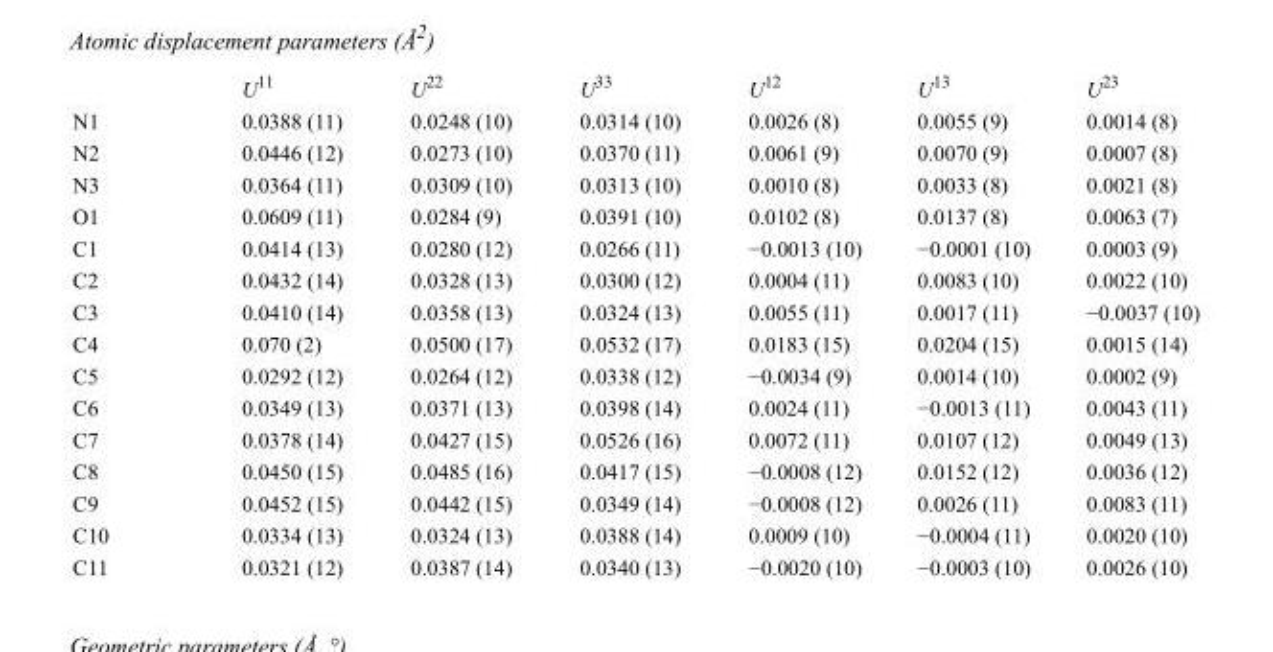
<table><thead><tr><td></td><td>U<sup>11</sup></td><td>U<sup>22</sup></td><td>U<sup>33</sup></td><td>U<sup>12</sup></td><td>U<sup>13</sup></td><td>U<sup>23</sup></td></tr></thead><tbody><tr><td>N1</td><td>0.0388 (11)</td><td>0.0248 (10)</td><td>0.0314 (10)</td><td>0.0026 (8)</td><td>0.0055 (9)</td><td>0.0014 (8)</td></tr><tr><td>N2</td><td>0.0446 (12)</td><td>0.0273 (10)</td><td>0.0370 (11)</td><td>0.0061 (9)</td><td>0.0070 (9)</td><td>0.0007 (8)</td></tr><tr><td>N3</td><td>0.0364 (11)</td><td>0.0309 (10)</td><td>0.0313 (10)</td><td>0.0010 (8)</td><td>0.0033 (8)</td><td>0.0021 (8)</td></tr><tr><td>O1</td><td>0.0609 (11)</td><td>0.0284 (9)</td><td>0.0391 (10)</td><td>0.0102 (8)</td><td>0.0137 (8)</td><td>0.0063 (7)</td></tr><tr><td>C1</td><td>0.0414 (13)</td><td>0.0280 (12)</td><td>0.0266 (11)</td><td>−0.0013 (10)</td><td>−0.0001 (10)</td><td>0.0003 (9)</td></tr><tr><td>C2</td><td>0.0432 (14)</td><td>0.0328 (13)</td><td>0.0300 (12)</td><td>0.0004 (11)</td><td>0.0083 (10)</td><td>0.0022 (10)</td></tr><tr><td>C3</td><td>0.0410 (14)</td><td>0.0358 (13)</td><td>0.0324 (13)</td><td>0.0055 (11)</td><td>0.0017 (11)</td><td>−0.0037 (10)</td></tr><tr><td>C4</td><td>0.070 (2)</td><td>0.0500 (17)</td><td>0.0532 (17)</td><td>0.0183 (15)</td><td>0.0204 (15)</td><td>0.0015 (14)</td></tr><tr><td>C5</td><td>0.0292 (12)</td><td>0.0264 (12)</td><td>0.0338 (12)</td><td>−0.0034 (9)</td><td>0.0014 (10)</td><td>0.0002 (9)</td></tr><tr><td>C6</td><td>0.0349 (13)</td><td>0.0371 (13)</td><td>0.0398 (14)</td><td>0.0024 (11)</td><td>−0.0013 (11)</td><td>0.0043 (11)</td></tr><tr><td>C7</td><td>0.0378 (14)</td><td>0.0427 (15)</td><td>0.0526 (16)</td><td>0.0072 (11)</td><td>0.0107 (12)</td><td>0.0049 (13)</td></tr><tr><td>C8</td><td>0.0450 (15)</td><td>0.0485 (16)</td><td>0.0417 (15)</td><td>−0.0008 (12)</td><td>0.0152 (12)</td><td>0.0036 (12)</td></tr><tr><td>C9</td><td>0.0452 (15)</td><td>0.0442 (15)</td><td>0.0349 (14)</td><td>−0.0008 (12)</td><td>0.0026 (11)</td><td>0.0083 (11)</td></tr><tr><td>C10</td><td>0.0334 (13)</td><td>0.0324 (13)</td><td>0.0388 (14)</td><td>0.0009 (10)</td><td>−0.0004 (11)</td><td>0.0020 (10)</td></tr><tr><td>C11</td><td>0.0321 (12)</td><td>0.0387 (14)</td><td>0.0340 (13)</td><td>−0.0020 (10)</td><td>−0.0003 (10)</td><td>0.0026 (10)</td></tr></tbody></table>